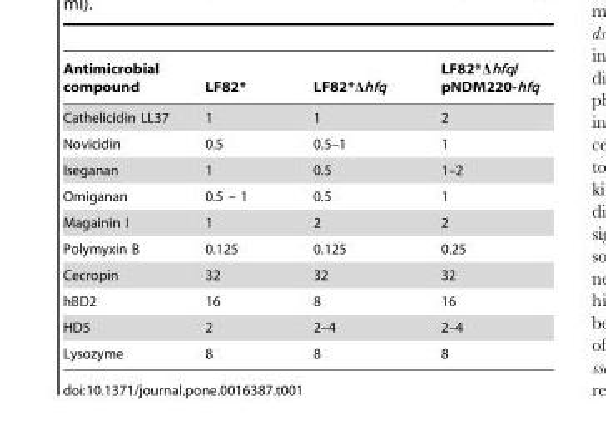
<table><thead><tr><td>Antimicrobial compound</td><td>LF82*</td><td>LF82*Δhfq</td><td>LF82*Δhfq/ pNDM220-hfq</td></tr></thead><tbody><tr><td>Cathelicidin LL37</td><td>1</td><td>1</td><td>2</td></tr><tr><td>Novicidin</td><td>0.5</td><td>0.5–1</td><td>1</td></tr><tr><td>Iseganan</td><td>1</td><td>0.5</td><td>1–2</td></tr><tr><td>Omiganan</td><td>0.5 – 1</td><td>0.5</td><td>1</td></tr><tr><td>Magainin I</td><td>1</td><td>2</td><td>2</td></tr><tr><td>Polymyxin B</td><td>0.125</td><td>0.125</td><td>0.25</td></tr><tr><td>Cecropin</td><td>32</td><td>32</td><td>32</td></tr><tr><td>hBD2</td><td>16</td><td>8</td><td>16</td></tr><tr><td>HD5</td><td>2</td><td>2–4</td><td>2–4</td></tr><tr><td>Lysozyme</td><td>8</td><td>8</td><td>8</td></tr></tbody></table>